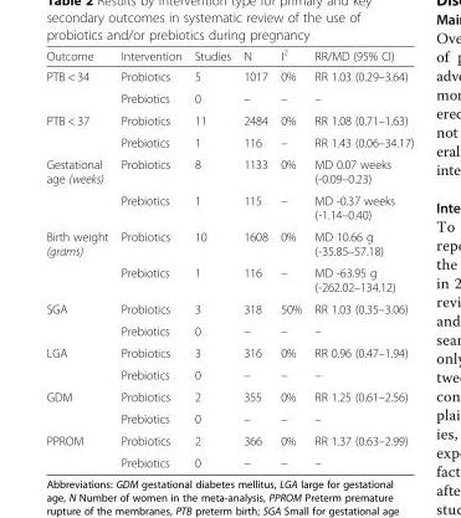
<table><thead><tr><td>Outcome</td><td>Intervention</td><td>Studies</td><td>N</td><td>I<sup>2</sup></td><td>RR/MD (95% CI)</td></tr></thead><tbody><tr><td rowspan="2">PTB &lt; 34</td><td>Probiotics</td><td>5</td><td>1017</td><td>0%</td><td>RR 1.03 (0.29–3.64)</td></tr><tr><td>Prebiotics</td><td>0</td><td>–</td><td>–</td><td>–</td></tr><tr><td rowspan="2">PTB &lt; 37</td><td>Probiotics</td><td>11</td><td>2484</td><td>0%</td><td>RR 1.08 (0.71–1.63)</td></tr><tr><td>Prebiotics</td><td>1</td><td>116</td><td>–</td><td>RR 1.43 (0.06–34.17)</td></tr><tr><td rowspan="2">Gestational age (weeks)</td><td>Probiotics</td><td>8</td><td>1133</td><td>0%</td><td>MD 0.07 weeks (-0.09–0.23)</td></tr><tr><td>Prebiotics</td><td>1</td><td>115</td><td>–</td><td>MD -0.37 weeks (-1.14–0.40)</td></tr><tr><td rowspan="2">Birth weight (grams)</td><td>Probiotics</td><td>10</td><td>1608</td><td>0%</td><td>MD 10.66 g (-35.85–57.18)</td></tr><tr><td>Prebiotics</td><td>1</td><td>116</td><td>–</td><td>MD -63.95 g (-262.02–134.12)</td></tr><tr><td rowspan="2">SGA</td><td>Probiotics</td><td>3</td><td>318</td><td>50%</td><td>RR 1.03 (0.35–3.06)</td></tr><tr><td>Prebiotics</td><td>0</td><td>–</td><td>–</td><td>–</td></tr><tr><td rowspan="2">LGA</td><td>Probiotics</td><td>3</td><td>316</td><td>0%</td><td>RR 0.96 (0.47–1.94)</td></tr><tr><td>Prebiotics</td><td>0</td><td>–</td><td>–</td><td>–</td></tr><tr><td rowspan="2">GDM</td><td>Probiotics</td><td>2</td><td>355</td><td>0%</td><td>RR 1.25 (0.61–2.56)</td></tr><tr><td>Prebiotics</td><td>0</td><td>–</td><td>–</td><td>–</td></tr><tr><td rowspan="2">PPROM</td><td>Probiotics</td><td>2</td><td>366</td><td>0%</td><td>RR 1.37 (0.63–2.99)</td></tr><tr><td>Prebiotics</td><td>0</td><td>–</td><td>–</td><td>–</td></tr></tbody></table>